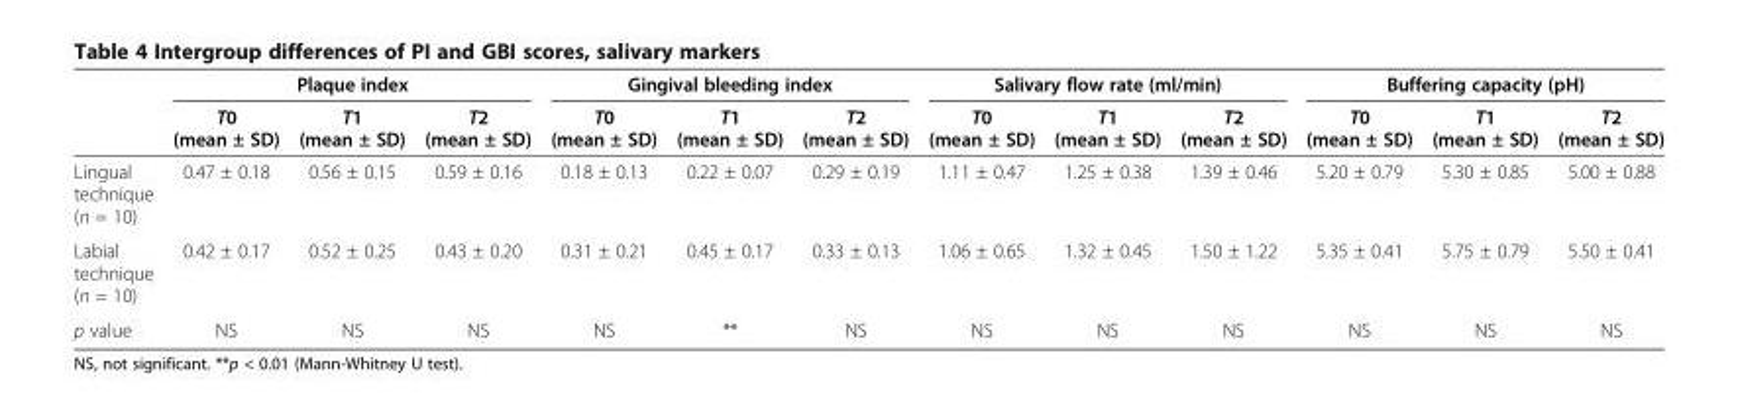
<table><thead><tr><td rowspan="2"></td><td colspan="3">Plaque index</td><td colspan="3">Gingival bleeding index</td><td colspan="3">Salivary flow rate (ml/min)</td><td colspan="3">Buffering capacity (pH)</td></tr><tr><td>T0 (mean ± SD)</td><td>T1 (mean ± SD)</td><td>T2 (mean ± SD)</td><td>T0 (mean ± SD)</td><td>T1 (mean ± SD)</td><td>T2 (mean ± SD)</td><td>T0 (mean ± SD)</td><td>T1 (mean ± SD)</td><td>T2 (mean ± SD)</td><td>T0 (mean ± SD)</td><td>T1 (mean ± SD)</td><td>T2 (mean ± SD)</td></tr></thead><tbody><tr><td>Lingual technique (n = 10)</td><td>0.47 ± 0.18</td><td>0.56 ± 0.15</td><td>0.59 ± 0.16</td><td>0.18 ± 0.13</td><td>0.22 ± 0.07</td><td>0.29 ± 0.19</td><td>1.11 ± 0.47</td><td>1.25 ± 0.38</td><td>1.39 ± 0.46</td><td>5.20 ± 0.79</td><td>5.30 ± 0.85</td><td>5.00 ± 0.88</td></tr><tr><td>Labial technique (n = 10)</td><td>0.42 ± 0.17</td><td>0.52 ± 0.25</td><td>0.43 ± 0.20</td><td>0.31 ± 0.21</td><td>0.45 ± 0.17</td><td>0.33 ± 0.13</td><td>1.06 ± 0.65</td><td>1.32 ± 0.45</td><td>1.50 ± 1.22</td><td>5.35 ± 0.41</td><td>5.75 ± 0.79</td><td>5.50 ± 0.41</td></tr><tr><td>p value</td><td>NS</td><td>NS</td><td>NS</td><td>NS</td><td>**</td><td>NS</td><td>NS</td><td>NS</td><td>NS</td><td>NS</td><td>NS</td><td>NS</td></tr></tbody></table>